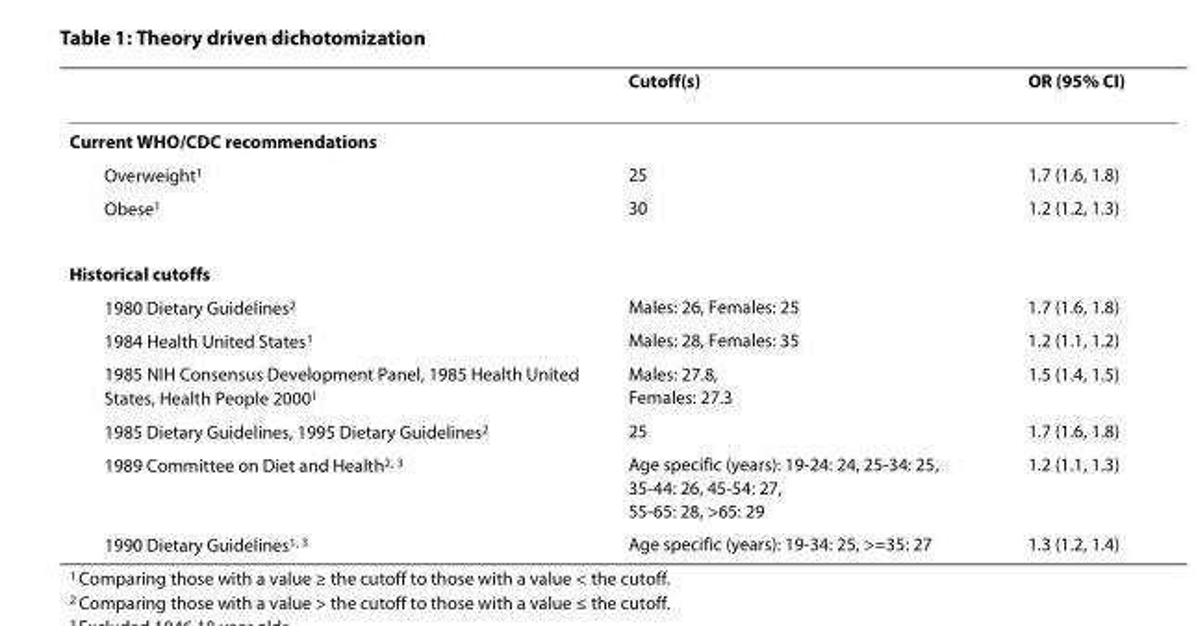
<table><thead><tr><td></td><td>Cutoff(s)</td><td>OR (95% CI)</td></tr></thead><tbody><tr><td colspan="3">Current WHO/CDC recommendations</td></tr><tr><td>Overweight<sup>1</sup></td><td>25</td><td>1.7 (1.6, 1.8)</td></tr><tr><td>Obese<sup>1</sup></td><td>30</td><td>1.2 (1.2, 1.3)</td></tr><tr><td colspan="3">Historical cutoffs</td></tr><tr><td>1980 Dietary Guidelines<sup>2</sup></td><td>Males: 26, Females: 25</td><td>1.7 (1.6, 1.8)</td></tr><tr><td>1984 Health United States<sup>1</sup></td><td>Males: 28, Females: 35</td><td>1.2 (1.1, 1.2)</td></tr><tr><td>1985 NIH Consensus Development Panel, 1985 Health United States, Health People 2000<sup>1</sup></td><td>Males: 27.8, Females: 27.3</td><td>1.5 (1.4, 1.5)</td></tr><tr><td>1985 Dietary Guidelines, 1995 Dietary Guidelines<sup>2</sup></td><td>25</td><td>1.7 (1.6, 1.8)</td></tr><tr><td>1989 Committee on Diet and Health<sup>2, 3</sup></td><td>Age specific (years): 19-24: 24, 25-34: 25, 35-44: 26, 45-54: 27, 55-65: 28, &gt;65: 29</td><td>1.2 (1.1, 1.3)</td></tr><tr><td>1990 Dietary Guidelines<sup>1, 3</sup></td><td>Age specific (years): 19-34: 25, &gt;=35: 27</td><td>1.3 (1.2, 1.4)</td></tr></tbody></table>